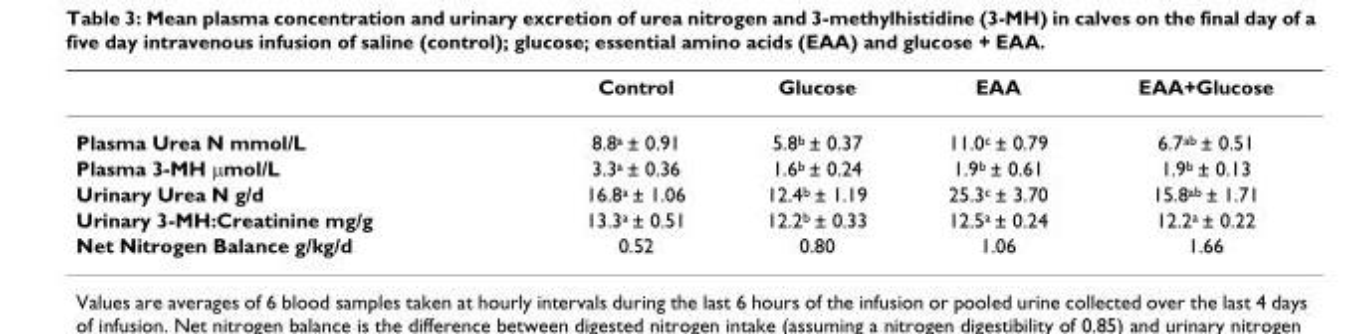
<table><thead><tr><td></td><td>Control</td><td>Glucose</td><td>EAA</td><td>EAA+Glucose</td></tr></thead><tbody><tr><td>Plasma Urea N mmol/L</td><td>8.8<sup>a</sup> ± 0.91</td><td>5.8<sup>b</sup> ± 0.37</td><td>11.0<sup>c</sup> ± 0.79</td><td>6.7<sup>ab</sup> ± 0.51</td></tr><tr><td>Plasma 3-MH µmol/L</td><td>3.3<sup>a</sup> ± 0.36</td><td>1.6<sup>b</sup> ± 0.24</td><td>1.9<sup>b</sup> ± 0.61</td><td>1.9<sup>b</sup> ± 0.13</td></tr><tr><td>Urinary Urea N g/d</td><td>16.8<sup>a</sup> ± 1.06</td><td>12.4<sup>b</sup> ± 1.19</td><td>25.3<sup>c</sup> ± 3.70</td><td>15.8<sup>ab</sup> ± 1.71</td></tr><tr><td>Urinary 3-MH:Creatinine mg/g</td><td>13.3<sup>a</sup> ± 0.51</td><td>12.2<sup>b</sup> ± 0.33</td><td>12.5<sup>a</sup> ± 0.24</td><td>12.2<sup>a</sup> ± 0.22</td></tr><tr><td>Net Nitrogen Balance g/kg/d</td><td>0.52</td><td>0.80</td><td>1.06</td><td>1.66</td></tr></tbody></table>